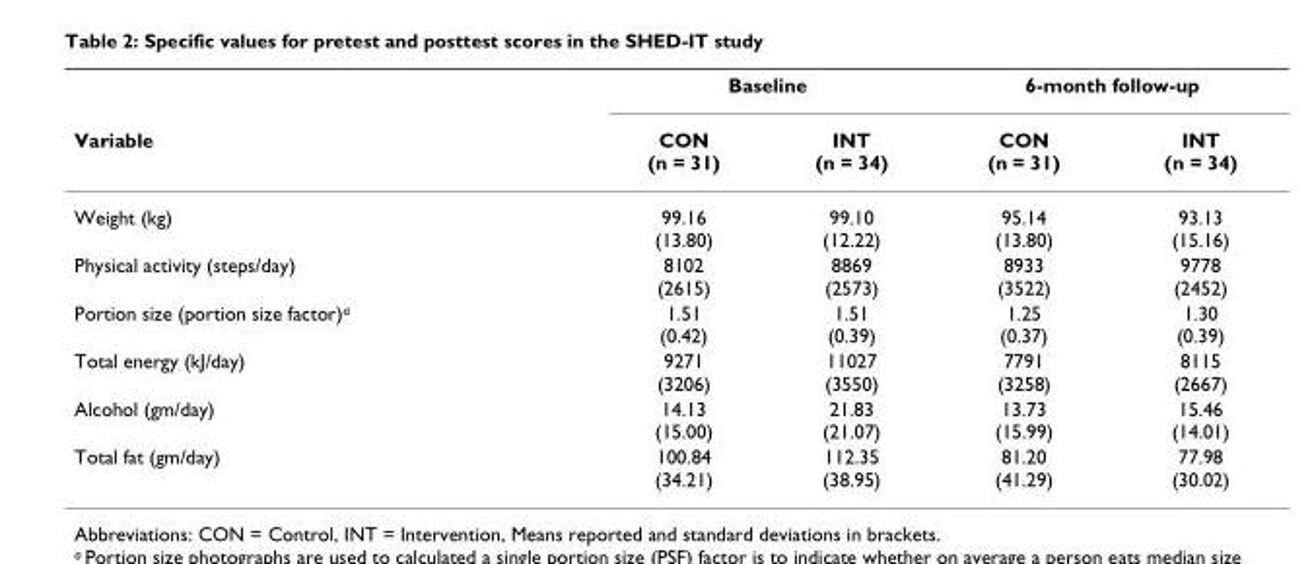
<table><thead><tr><td rowspan="2">Variable</td><td colspan="2">Baseline</td><td colspan="2">6-month follow-up</td></tr><tr><td>CON (n = 31)</td><td>INT (n = 34)</td><td>CON (n = 31)</td><td>INT (n = 34)</td></tr></thead><tbody><tr><td>Weight (kg)</td><td>99.16 (13.80)</td><td>99.10 (12.22)</td><td>95.14 (13.80)</td><td>93.13 (15.16)</td></tr><tr><td>Physical activity (steps/day)</td><td>8102 (2615)</td><td>8869 (2573)</td><td>8933 (3522)</td><td>9778 (2452)</td></tr><tr><td>Portion size (portion size factor)<sup>a</sup></td><td>1.51 (0.42)</td><td>1.51 (0.39)</td><td>1.25 (0.37)</td><td>1.30 (0.39)</td></tr><tr><td>Total energy (kJ/day)</td><td>9271 (3206)</td><td>11027 (3550)</td><td>7791 (3258)</td><td>8115 (2667)</td></tr><tr><td>Alcohol (gm/day)</td><td>14.13 (15.00)</td><td>21.83 (21.07)</td><td>13.73 (15.99)</td><td>15.46 (14.01)</td></tr><tr><td>Total fat (gm/day)</td><td>100.84 (34.21)</td><td>112.35 (38.95)</td><td>81.20 (41.29)</td><td>77.98 (30.02)</td></tr></tbody></table>